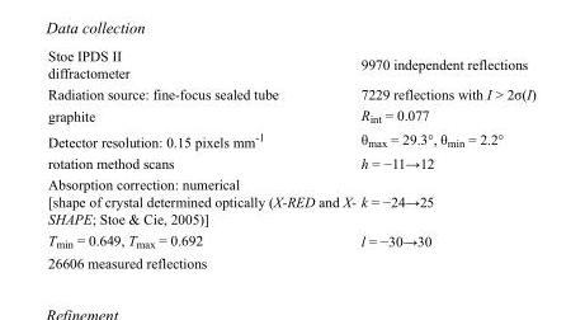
<table><tbody><tr><td>Stoe IPDS II diffractometer</td><td>9970 independent reflections</td></tr><tr><td>Radiation source: fine-focus sealed tube</td><td>7229 reflections with I &gt; 2σ(I)</td></tr><tr><td>graphite</td><td>R<sub>int</sub> = 0.077</td></tr><tr><td>Detector resolution: 0.15 pixels mm<sup>-1</sup></td><td>θ<sub>max</sub> = 29.3°, θ<sub>min</sub> = 2.2°</td></tr><tr><td>rotation method scans</td><td>h = −11→12</td></tr><tr><td>Absorption correction: numerical [shape of crystal determined optically (X-RED and X- SHAPE; Stoe &amp; Cie, 2005)]</td><td>k = −24→25</td></tr><tr><td>T<sub>min</sub> = 0.649, T<sub>max</sub> = 0.692</td><td>l = −30→30</td></tr><tr><td>26606 measured reflections</td><td></td></tr></tbody></table>